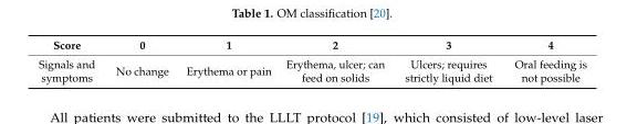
<table><thead><tr><td>Score</td><td>0</td><td>1</td><td>2</td><td>3</td><td>4</td></tr></thead><tbody><tr><td>Signals and symptoms</td><td>No change</td><td>Erythema or pain</td><td>Erythema, ulcer; can feed on solids</td><td>Ulcers; requires strictly liquid diet</td><td>Oral feeding is not possible</td></tr></tbody></table>